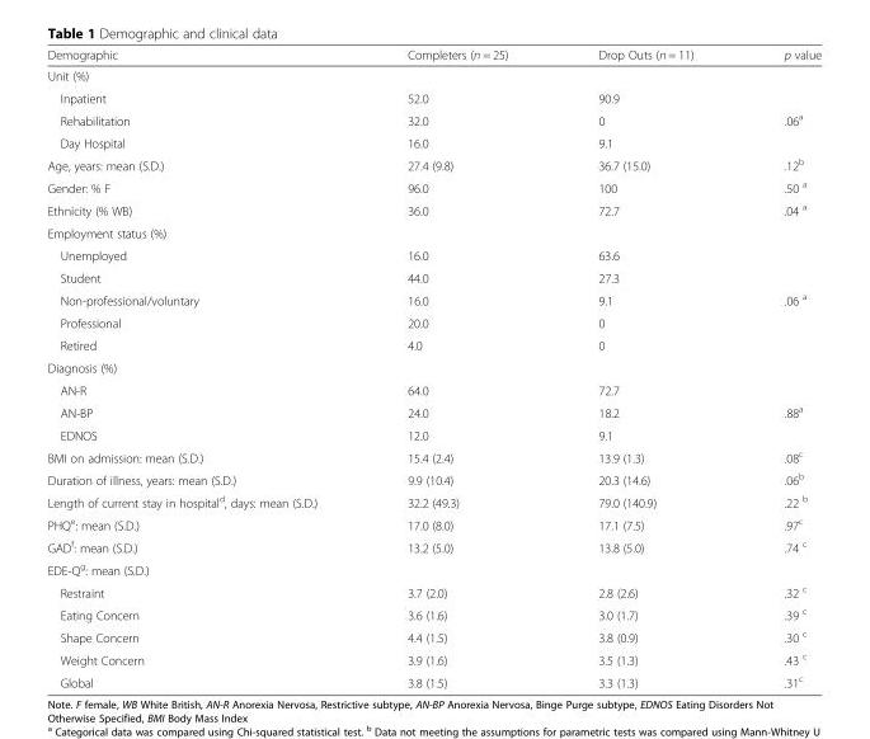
<table><thead><tr><td>Demographic</td><td>Completers (n = 25)</td><td>Drop Outs (n = 11)</td><td>p value</td></tr></thead><tbody><tr><td colspan="4">Unit (%)</td></tr><tr><td>Inpatient</td><td>52.0</td><td>90.9</td><td></td></tr><tr><td>Rehabilitation</td><td>32.0</td><td>0</td><td>.06<sup>a</sup></td></tr><tr><td>Day Hospital</td><td>16.0</td><td>9.1</td><td></td></tr><tr><td>Age, years: mean (S.D.)</td><td>27.4 (9.8)</td><td>36.7 (15.0)</td><td>.12<sup>b</sup></td></tr><tr><td>Gender: % F</td><td>96.0</td><td>100</td><td>.50 <sup>a</sup></td></tr><tr><td>Ethnicity (% WB)</td><td>36.0</td><td>72.7</td><td>.04 <sup>a</sup></td></tr><tr><td colspan="4">Employment status (%)</td></tr><tr><td>Unemployed</td><td>16.0</td><td>63.6</td><td></td></tr><tr><td>Student</td><td>44.0</td><td>27.3</td><td></td></tr><tr><td>Non-professional/voluntary</td><td>16.0</td><td>9.1</td><td>.06 <sup>a</sup></td></tr><tr><td>Professional</td><td>20.0</td><td>0</td><td></td></tr><tr><td>Retired</td><td>4.0</td><td>0</td><td></td></tr><tr><td colspan="4">Diagnosis (%)</td></tr><tr><td>AN-R</td><td>64.0</td><td>72.7</td><td></td></tr><tr><td>AN-BP</td><td>24.0</td><td>18.2</td><td>.88<sup>a</sup></td></tr><tr><td>EDNOS</td><td>12.0</td><td>9.1</td><td></td></tr><tr><td>BMI on admission: mean (S.D.)</td><td>15.4 (2.4)</td><td>13.9 (1.3)</td><td>.08<sup>c</sup></td></tr><tr><td>Duration of illness, years: mean (S.D.)</td><td>9.9 (10.4)</td><td>20.3 (14.6)</td><td>.06<sup>b</sup></td></tr><tr><td>Length of current stay in hospital<sup>d</sup>, days: mean (S.D.)</td><td>32.2 (49.3)</td><td>79.0 (140.9)</td><td>.22 <sup>b</sup></td></tr><tr><td>PHQ<sup>e</sup>: mean (S.D.)</td><td>17.0 (8.0)</td><td>17.1 (7.5)</td><td>.97<sup>c</sup></td></tr><tr><td>GAD<sup>f</sup>: mean (S.D.)</td><td>13.2 (5.0)</td><td>13.8 (5.0)</td><td>.74 <sup>c</sup></td></tr><tr><td colspan="4">EDE-Q<sup>g</sup>: mean (S.D.)</td></tr><tr><td>Restraint</td><td>3.7 (2.0)</td><td>2.8 (2.6)</td><td>.32 <sup>c</sup></td></tr><tr><td>Eating Concern</td><td>3.6 (1.6)</td><td>3.0 (1.7)</td><td>.39 <sup>c</sup></td></tr><tr><td>Shape Concern</td><td>4.4 (1.5)</td><td>3.8 (0.9)</td><td>.30 <sup>c</sup></td></tr><tr><td>Weight Concern</td><td>3.9 (1.6)</td><td>3.5 (1.3)</td><td>.43 <sup>c</sup></td></tr><tr><td>Global</td><td>3.8 (1.5)</td><td>3.3 (1.3)</td><td>.31<sup>c</sup></td></tr></tbody></table>